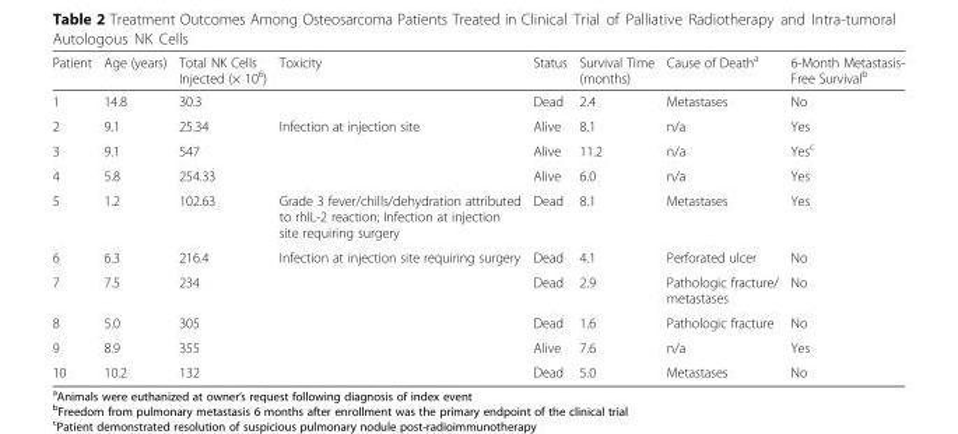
<table><thead><tr><td>Patient</td><td>Age (years)</td><td>Total NK Cells Injected (× 10<sup>6</sup>)</td><td>Toxicity</td><td>Status</td><td>Survival Time (months)</td><td>Cause of Death<sup>a</sup></td><td>6-Month Metastasis- Free Survival<sup>b</sup></td></tr></thead><tbody><tr><td>1</td><td>14.8</td><td>30.3</td><td></td><td>Dead</td><td>2.4</td><td>Metastases</td><td>No</td></tr><tr><td>2</td><td>9.1</td><td>25.34</td><td>Infection at injection site</td><td>Alive</td><td>8.1</td><td>n/a</td><td>Yes</td></tr><tr><td>3</td><td>9.1</td><td>547</td><td></td><td>Alive</td><td>11.2</td><td>n/a</td><td>Yes<sup>c</sup></td></tr><tr><td>4</td><td>5.8</td><td>254.33</td><td></td><td>Alive</td><td>6.0</td><td>n/a</td><td>Yes</td></tr><tr><td>5</td><td>1.2</td><td>102.63</td><td>Grade 3 fever/chills/dehydration attributed to rhIL-2 reaction; Infection at injection site requiring surgery</td><td>Dead</td><td>8.1</td><td>Metastases</td><td>Yes</td></tr><tr><td>6</td><td>6.3</td><td>216.4</td><td>Infection at injection site requiring surgery</td><td>Dead</td><td>4.1</td><td>Perforated ulcer</td><td>No</td></tr><tr><td>7</td><td>7.5</td><td>234</td><td></td><td>Dead</td><td>2.9</td><td>Pathologic fracture/ metastases</td><td>No</td></tr><tr><td>8</td><td>5.0</td><td>305</td><td></td><td>Dead</td><td>1.6</td><td>Pathologic fracture</td><td>No</td></tr><tr><td>9</td><td>8.9</td><td>355</td><td></td><td>Alive</td><td>7.6</td><td>n/a</td><td>Yes</td></tr><tr><td>10</td><td>10.2</td><td>132</td><td></td><td>Dead</td><td>5.0</td><td>Metastases</td><td>No</td></tr></tbody></table>